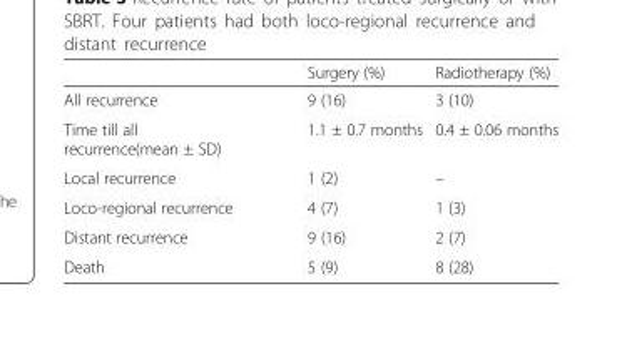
<table><thead><tr><td></td><td>Surgery (%)</td><td>Radiotherapy (%)</td></tr></thead><tbody><tr><td>All recurrence</td><td>9 (16)</td><td>3 (10)</td></tr><tr><td>Time till all recurrence(mean ± SD)</td><td>1.1 ± 0.7 months</td><td>0.4 ± 0.06 months</td></tr><tr><td>Local recurrence</td><td>1 (2)</td><td>–</td></tr><tr><td>Loco-regional recurrence</td><td>4 (7)</td><td>1 (3)</td></tr><tr><td>Distant recurrence</td><td>9 (16)</td><td>2 (7)</td></tr><tr><td>Death</td><td>5 (9)</td><td>8 (28)</td></tr></tbody></table>